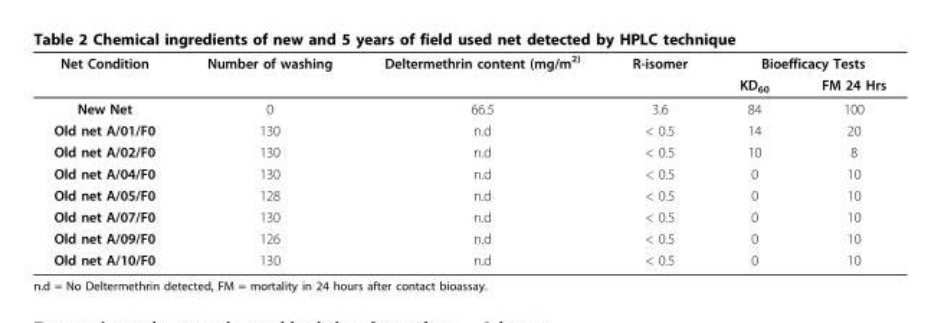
<table><thead><tr><td rowspan="2">Net Condition</td><td rowspan="2">Number of washing</td><td rowspan="2">Deltermethrin content (mg/m<sup>2)</sup></td><td rowspan="2">R-isomer</td><td colspan="2">Bioefficacy Tests</td></tr><tr><td>KD<sub>60</sub></td><td>FM 24 Hrs</td></tr></thead><tbody><tr><td>New Net</td><td>0</td><td>66.5</td><td>3.6</td><td>84</td><td>100</td></tr><tr><td>Old net A/01/F0</td><td>130</td><td>n.d</td><td>&lt; 0.5</td><td>14</td><td>20</td></tr><tr><td>Old net A/02/F0</td><td>130</td><td>n.d</td><td>&lt; 0.5</td><td>10</td><td>8</td></tr><tr><td>Old net A/04/F0</td><td>130</td><td>n.d</td><td>&lt; 0.5</td><td>0</td><td>10</td></tr><tr><td>Old net A/05/F0</td><td>128</td><td>n.d</td><td>&lt; 0.5</td><td>0</td><td>10</td></tr><tr><td>Old net A/07/F0</td><td>130</td><td>n.d</td><td>&lt; 0.5</td><td>0</td><td>10</td></tr><tr><td>Old net A/09/F0</td><td>126</td><td>n.d</td><td>&lt; 0.5</td><td>0</td><td>10</td></tr><tr><td>Old net A/10/F0</td><td>130</td><td>n.d</td><td>&lt; 0.5</td><td>0</td><td>10</td></tr></tbody></table>